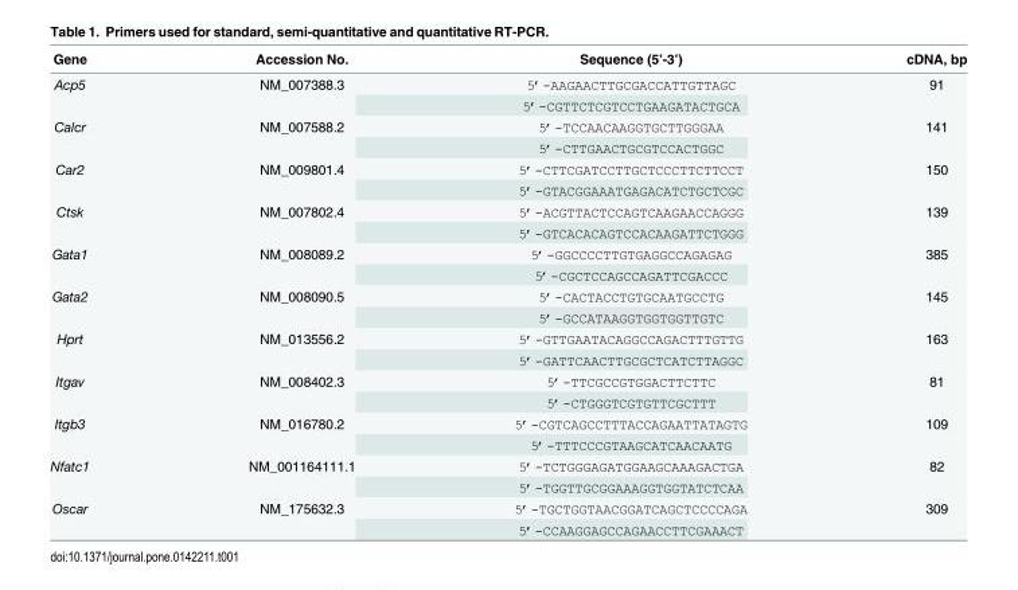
<table><thead><tr><td>Gene</td><td>Accession No.</td><td>Sequence (5’-3’)</td><td>cDNA, bp</td></tr></thead><tbody><tr><td rowspan="2">Acp5</td><td rowspan="2">NM_007388.3</td><td>5’-AAGAACTTGCGACCATTGTTAGC</td><td rowspan="2">91</td></tr><tr><td>5’-CGTTCTCGTCCTGAAGATACTGCA</td></tr><tr><td rowspan="2">Calcr</td><td rowspan="2">NM_007588.2</td><td>5’-TCCAACAAGGTGCTTGGGAA</td><td rowspan="2">141</td></tr><tr><td>5’-CTTGAACTGCGTCCACTGGC</td></tr><tr><td rowspan="2">Car2</td><td rowspan="2">NM_009801.4</td><td>5’-CTTCGATCCTTGCTCCCTTCTTCCT</td><td rowspan="2">150</td></tr><tr><td>5’-GTACGGAAATGAGACATCTGCTCGC</td></tr><tr><td rowspan="2">Ctsk</td><td rowspan="2">NM_007802.4</td><td>5’-ACGTTACTCCAGTCAAGAACCAGGG</td><td rowspan="2">139</td></tr><tr><td>5’-GTCACACAGTCCACAAGATTCTGGG</td></tr><tr><td rowspan="2">Gata1</td><td rowspan="2">NM_008089.2</td><td>5’-GGCCCCTTGTGAGGCCAGAGAG</td><td rowspan="2">385</td></tr><tr><td>5’-CGCTCCAGCCAGATTCGACCC</td></tr><tr><td rowspan="2">Gata2</td><td rowspan="2">NM_008090.5</td><td>5’-CACTACCTGTGCAATGCCTG</td><td rowspan="2">145</td></tr><tr><td>5’-GCCATAAGGTGGTGGTTGTC</td></tr><tr><td rowspan="2">Hprt</td><td rowspan="2">NM_013556.2</td><td>5’-GTTGAATACAGGCCAGACTTTGTTG</td><td rowspan="2">163</td></tr><tr><td>5’-GATTCAACTTGCGCTCATCTTAGGC</td></tr><tr><td rowspan="2">Itgav</td><td rowspan="2">NM_008402.3</td><td>5’-TTCGCCGTGGACTTCTTC</td><td rowspan="2">81</td></tr><tr><td>5’-CTGGGTCGTGTTCGCTTT</td></tr><tr><td rowspan="2">Itgb3</td><td rowspan="2">NM_016780.2</td><td>5’-CGTCAGCCTTTACCAGAATTATAGTG</td><td rowspan="2">109</td></tr><tr><td>5’-TTTCCCGTAAGCATCAACAATG</td></tr><tr><td rowspan="2">Nfatc1</td><td rowspan="2">NM_001164111.1</td><td>5’-TCTGGGAGATGGAAGCAAAGACTGA</td><td rowspan="2">82</td></tr><tr><td>5’-TGGTTGCGGAAAGGTGGTATCTCAA</td></tr><tr><td rowspan="2">Oscar</td><td rowspan="2">NM_175632.3</td><td>5’-TGCTGGTAACGGATCAGCTCCCCAGA</td><td rowspan="2">309</td></tr><tr><td>5’-CCAAGGAGCCAGAACCTTCGAAACT</td></tr></tbody></table>